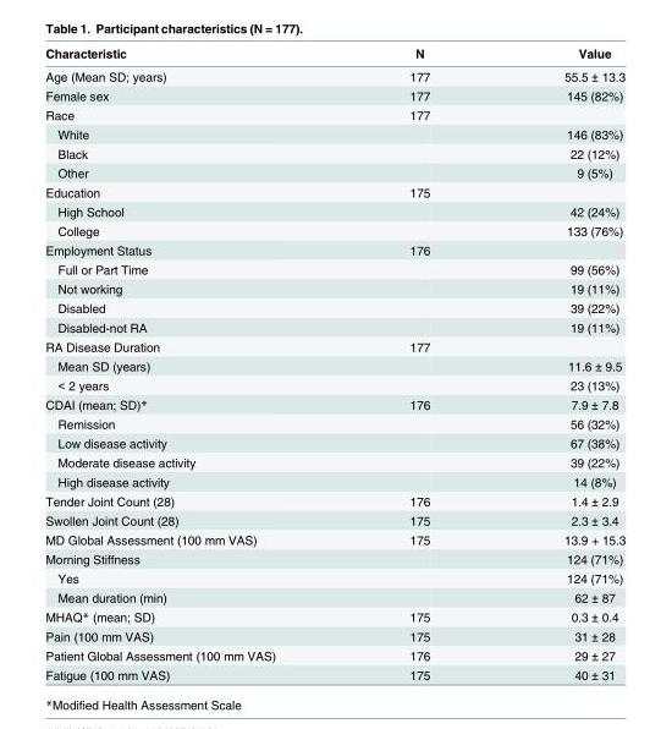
<table><thead><tr><td>Characteristic</td><td>N</td><td>Value</td></tr></thead><tbody><tr><td>Age (Mean SD; years)</td><td>177</td><td>55.5 ± 13.3</td></tr><tr><td>Female sex</td><td>177</td><td>145 (82%)</td></tr><tr><td>Race</td><td>177</td><td></td></tr><tr><td>White</td><td></td><td>146 (83%)</td></tr><tr><td>Black</td><td></td><td>22 (12%)</td></tr><tr><td>Other</td><td></td><td>9 (5%)</td></tr><tr><td>Education</td><td>175</td><td></td></tr><tr><td>High School</td><td></td><td>42 (24%)</td></tr><tr><td>College</td><td></td><td>133 (76%)</td></tr><tr><td>Employment Status</td><td>176</td><td></td></tr><tr><td>Full or Part Time</td><td></td><td>99 (56%)</td></tr><tr><td>Not working</td><td></td><td>19 (11%)</td></tr><tr><td>Disabled</td><td></td><td>39 (22%)</td></tr><tr><td>Disabled-not RA</td><td></td><td>19 (11%)</td></tr><tr><td>RA Disease Duration</td><td>177</td><td></td></tr><tr><td>Mean SD (years)</td><td></td><td>11.6 ± 9.5</td></tr><tr><td>&lt; 2 years</td><td></td><td>23 (13%)</td></tr><tr><td>CDAI (mean; SD)*</td><td>176</td><td>7.9 ± 7.8</td></tr><tr><td>Remission</td><td></td><td>56 (32%)</td></tr><tr><td>Low disease activity</td><td></td><td>67 (38%)</td></tr><tr><td>Moderate disease activity</td><td></td><td>39 (22%)</td></tr><tr><td>High disease activity</td><td></td><td>14 (8%)</td></tr><tr><td>Tender Joint Count (28)</td><td>176</td><td>1.4 ± 2.9</td></tr><tr><td>Swollen Joint Count (28)</td><td>175</td><td>2.3 ± 3.4</td></tr><tr><td>MD Global Assessment (100 mm VAS)</td><td>175</td><td>13.9 + 15.3</td></tr><tr><td>Morning Stiffness</td><td></td><td>124 (71%)</td></tr><tr><td>Yes</td><td></td><td>124 (71%)</td></tr><tr><td>Mean duration (min)</td><td></td><td>62 ± 87</td></tr><tr><td>MHAQ* (mean; SD)</td><td>175</td><td>0.3 ± 0.4</td></tr><tr><td>Pain (100 mm VAS)</td><td>175</td><td>31 ± 28</td></tr><tr><td>Patient Global Assessment (100 mm VAS)</td><td>176</td><td>29 ± 27</td></tr><tr><td>Fatigue (100 mm VAS)</td><td>175</td><td>40 ± 31</td></tr></tbody></table>